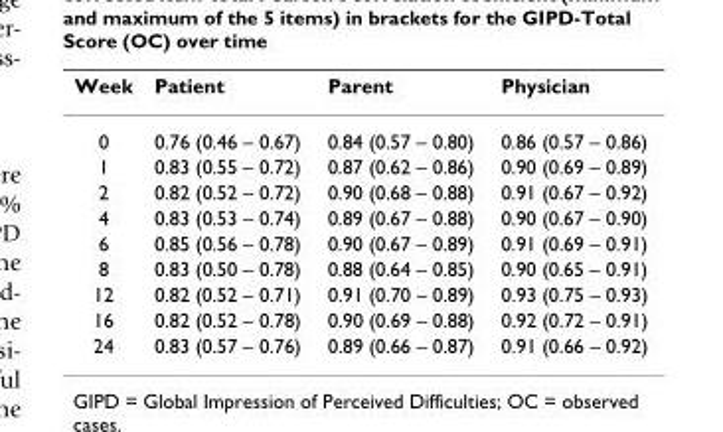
<table><thead><tr><td>Week</td><td>Patient</td><td>Parent</td><td>Physician</td></tr></thead><tbody><tr><td>0</td><td>0.76 (0.46 – 0.67)</td><td>0.84 (0.57 – 0.80)</td><td>0.86 (0.57 – 0.86)</td></tr><tr><td>1</td><td>0.83 (0.55 – 0.72)</td><td>0.87 (0.62 – 0.86)</td><td>0.90 (0.69 – 0.89)</td></tr><tr><td>2</td><td>0.82 (0.52 – 0.72)</td><td>0.90 (0.68 – 0.88)</td><td>0.91 (0.67 – 0.92)</td></tr><tr><td>4</td><td>0.83 (0.53 – 0.74)</td><td>0.89 (0.67 – 0.88)</td><td>0.90 (0.67 – 0.90)</td></tr><tr><td>6</td><td>0.85 (0.56 – 0.78)</td><td>0.90 (0.67 – 0.89)</td><td>0.91 (0.69 – 0.91)</td></tr><tr><td>8</td><td>0.83 (0.50 – 0.78)</td><td>0.88 (0.64 – 0.85)</td><td>0.90 (0.65 – 0.91)</td></tr><tr><td>12</td><td>0.82 (0.52 – 0.71)</td><td>0.91 (0.70 – 0.89)</td><td>0.93 (0.75 – 0.93)</td></tr><tr><td>16</td><td>0.82 (0.52 – 0.78)</td><td>0.90 (0.69 – 0.88)</td><td>0.92 (0.72 – 0.91)</td></tr><tr><td>24</td><td>0.83 (0.57 – 0.76)</td><td>0.89 (0.66 – 0.87)</td><td>0.91 (0.66 – 0.92)</td></tr></tbody></table>